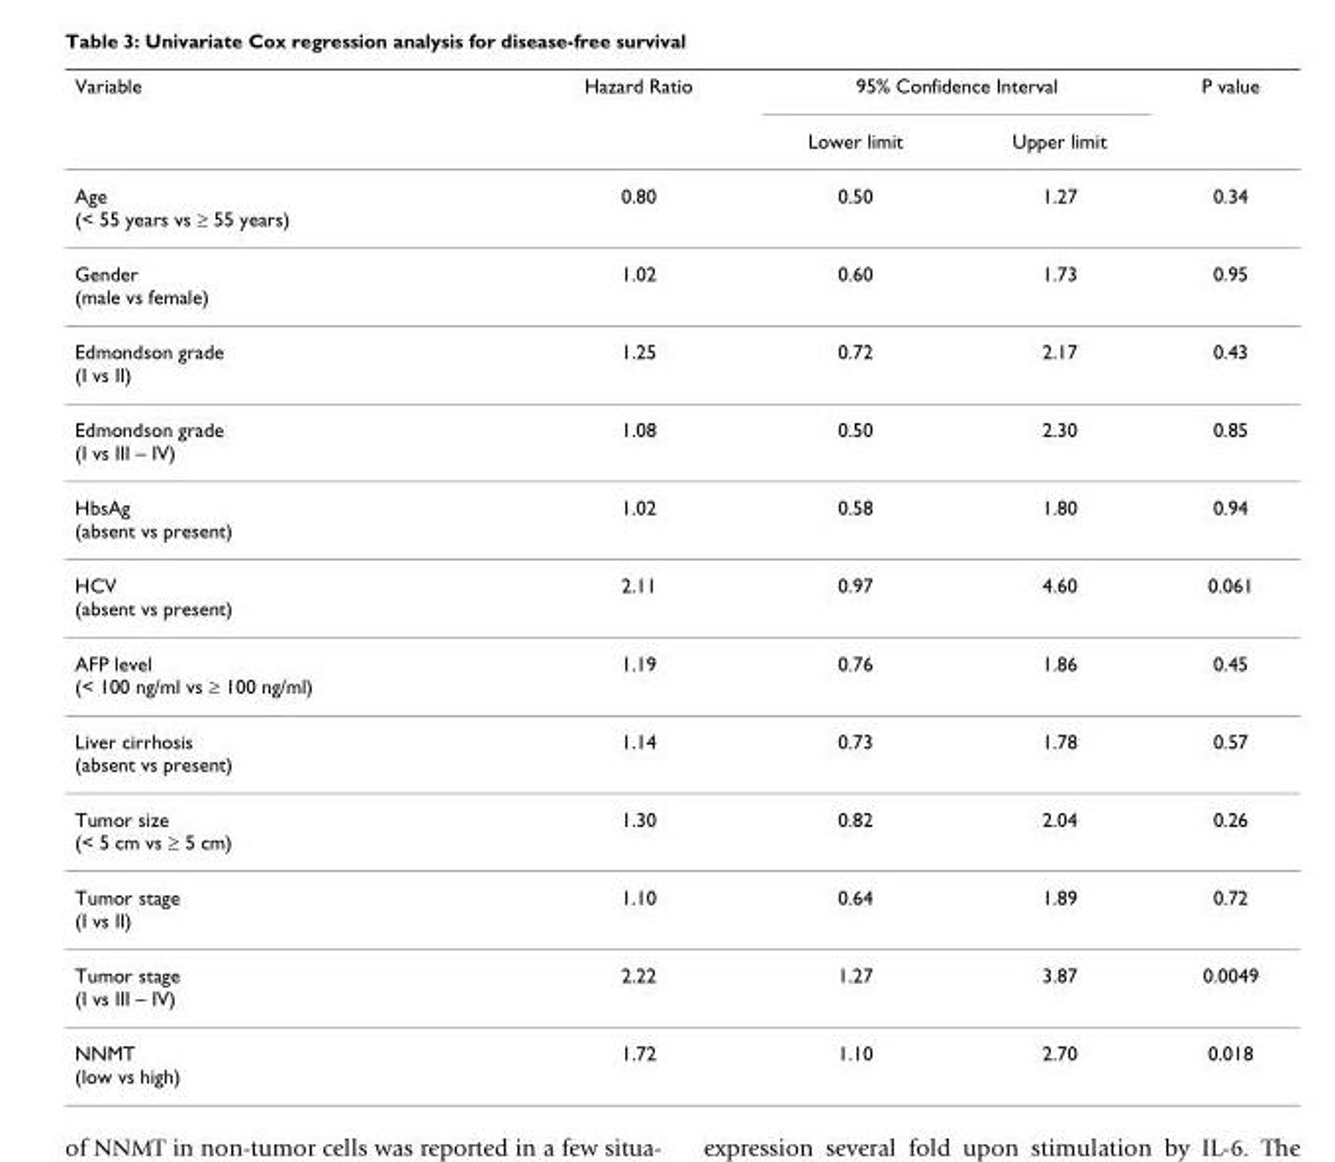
<table><thead><tr><td rowspan="2">Variable</td><td rowspan="2">Hazard Ratio</td><td colspan="2">95% Confidence Interval</td><td rowspan="2">P value</td></tr><tr><td>Lower limit</td><td>Upper limit</td></tr></thead><tbody><tr><td>Age (&lt; 55 years vs ≥ 55 years)</td><td>0.80</td><td>0.50</td><td>1.27</td><td>0.34</td></tr><tr><td>Gender (male vs female)</td><td>1.02</td><td>0.60</td><td>1.73</td><td>0.95</td></tr><tr><td>Edmondson grade (I vs II)</td><td>1.25</td><td>0.72</td><td>2.17</td><td>0.43</td></tr><tr><td>Edmondson grade (I vs III – IV)</td><td>1.08</td><td>0.50</td><td>2.30</td><td>0.85</td></tr><tr><td>HbsAg (absent vs present)</td><td>1.02</td><td>0.58</td><td>1.80</td><td>0.94</td></tr><tr><td>HCV (absent vs present)</td><td>2.11</td><td>0.97</td><td>4.60</td><td>0.061</td></tr><tr><td>AFP level (&lt; 100 ng/ml vs ≥ 100 ng/ml)</td><td>1.19</td><td>0.76</td><td>1.86</td><td>0.45</td></tr><tr><td>Liver cirrhosis (absent vs present)</td><td>1.14</td><td>0.73</td><td>1.78</td><td>0.57</td></tr><tr><td>Tumor size (&lt; 5 cm vs ≥ 5 cm)</td><td>1.30</td><td>0.82</td><td>2.04</td><td>0.26</td></tr><tr><td>Tumor stage (I vs II)</td><td>1.10</td><td>0.64</td><td>1.89</td><td>0.72</td></tr><tr><td>Tumor stage (I vs III – IV)</td><td>2.22</td><td>1.27</td><td>3.87</td><td>0.0049</td></tr><tr><td>NNMT (low vs high)</td><td>1.72</td><td>1.10</td><td>2.70</td><td>0.018</td></tr></tbody></table>